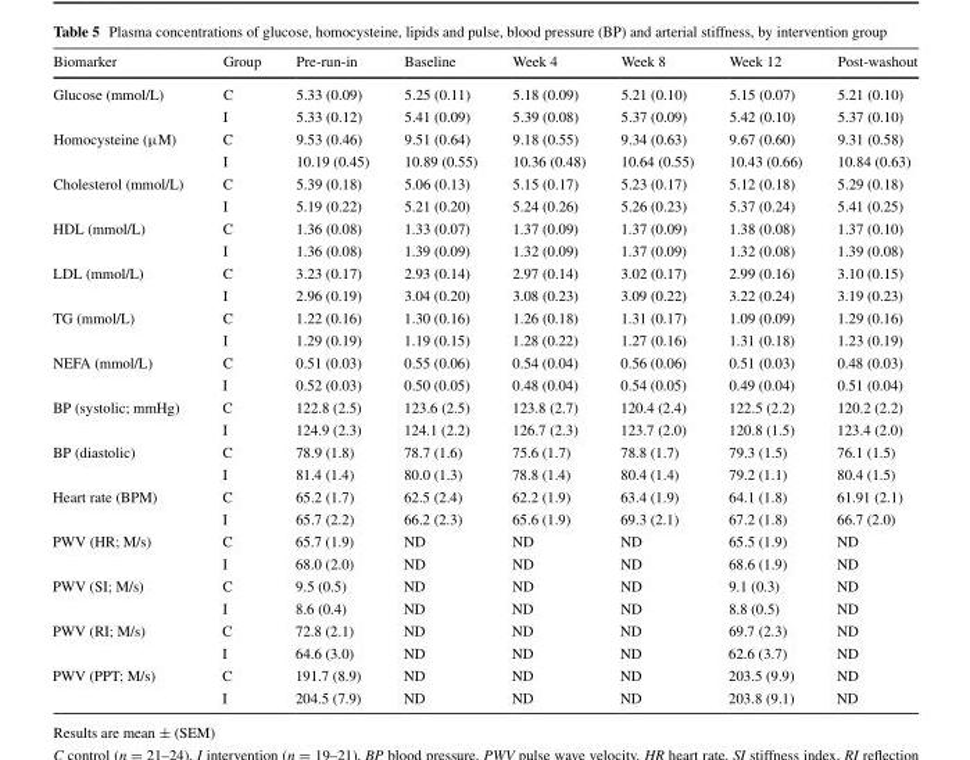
<table><thead><tr><td>Biomarker</td><td>Group</td><td>Pre-run-in</td><td>Baseline</td><td>Week 4</td><td>Week 8</td><td>Week 12</td><td>Post-washout</td></tr></thead><tbody><tr><td rowspan="2">Glucose (mmol/L)</td><td>C</td><td>5.33 (0.09)</td><td>5.25 (0.11)</td><td>5.18 (0.09)</td><td>5.21 (0.10)</td><td>5.15 (0.07)</td><td>5.21 (0.10)</td></tr><tr><td>I</td><td>5.33 (0.12)</td><td>5.41 (0.09)</td><td>5.39 (0.08)</td><td>5.37 (0.09)</td><td>5.42 (0.10)</td><td>5.37 (0.10)</td></tr><tr><td rowspan="2">Homocysteine (μM)</td><td>C</td><td>9.53 (0.46)</td><td>9.51 (0.64)</td><td>9.18 (0.55)</td><td>9.34 (0.63)</td><td>9.67 (0.60)</td><td>9.31 (0.58)</td></tr><tr><td>I</td><td>10.19 (0.45)</td><td>10.89 (0.55)</td><td>10.36 (0.48)</td><td>10.64 (0.55)</td><td>10.43 (0.66)</td><td>10.84 (0.63)</td></tr><tr><td rowspan="2">Cholesterol (mmol/L)</td><td>C</td><td>5.39 (0.18)</td><td>5.06 (0.13)</td><td>5.15 (0.17)</td><td>5.23 (0.17)</td><td>5.12 (0.18)</td><td>5.29 (0.18)</td></tr><tr><td>I</td><td>5.19 (0.22)</td><td>5.21 (0.20)</td><td>5.24 (0.26)</td><td>5.26 (0.23)</td><td>5.37 (0.24)</td><td>5.41 (0.25)</td></tr><tr><td rowspan="2">HDL (mmol/L)</td><td>C</td><td>1.36 (0.08)</td><td>1.33 (0.07)</td><td>1.37 (0.09)</td><td>1.37 (0.09)</td><td>1.38 (0.08)</td><td>1.37 (0.10)</td></tr><tr><td>I</td><td>1.36 (0.08)</td><td>1.39 (0.09)</td><td>1.32 (0.09)</td><td>1.37 (0.09)</td><td>1.32 (0.08)</td><td>1.39 (0.08)</td></tr><tr><td rowspan="2">LDL (mmol/L)</td><td>C</td><td>3.23 (0.17)</td><td>2.93 (0.14)</td><td>2.97 (0.14)</td><td>3.02 (0.17)</td><td>2.99 (0.16)</td><td>3.10 (0.15)</td></tr><tr><td>I</td><td>2.96 (0.19)</td><td>3.04 (0.20)</td><td>3.08 (0.23)</td><td>3.09 (0.22)</td><td>3.22 (0.24)</td><td>3.19 (0.23)</td></tr><tr><td rowspan="2">TG (mmol/L)</td><td>C</td><td>1.22 (0.16)</td><td>1.30 (0.16)</td><td>1.26 (0.18)</td><td>1.31 (0.17)</td><td>1.09 (0.09)</td><td>1.29 (0.16)</td></tr><tr><td>I</td><td>1.29 (0.19)</td><td>1.19 (0.15)</td><td>1.28 (0.22)</td><td>1.27 (0.16)</td><td>1.31 (0.18)</td><td>1.23 (0.19)</td></tr><tr><td rowspan="2">NEFA (mmol/L)</td><td>C</td><td>0.51 (0.03)</td><td>0.55 (0.06)</td><td>0.54 (0.04)</td><td>0.56 (0.06)</td><td>0.51 (0.03)</td><td>0.48 (0.03)</td></tr><tr><td>I</td><td>0.52 (0.03)</td><td>0.50 (0.05)</td><td>0.48 (0.04)</td><td>0.54 (0.05)</td><td>0.49 (0.04)</td><td>0.51 (0.04)</td></tr><tr><td rowspan="2">BP (systolic; mmHg)</td><td>C</td><td>122.8 (2.5)</td><td>123.6 (2.5)</td><td>123.8 (2.7)</td><td>120.4 (2.4)</td><td>122.5 (2.2)</td><td>120.2 (2.2)</td></tr><tr><td>I</td><td>124.9 (2.3)</td><td>124.1 (2.2)</td><td>126.7 (2.3)</td><td>123.7 (2.0)</td><td>120.8 (1.5)</td><td>123.4 (2.0)</td></tr><tr><td rowspan="2">BP (diastolic)</td><td>C</td><td>78.9 (1.8)</td><td>78.7 (1.6)</td><td>75.6 (1.7)</td><td>78.8 (1.7)</td><td>79.3 (1.5)</td><td>76.1 (1.5)</td></tr><tr><td>I</td><td>81.4 (1.4)</td><td>80.0 (1.3)</td><td>78.8 (1.4)</td><td>80.4 (1.4)</td><td>79.2 (1.1)</td><td>80.4 (1.5)</td></tr><tr><td rowspan="2">Heart rate (BPM)</td><td>C</td><td>65.2 (1.7)</td><td>62.5 (2.4)</td><td>62.2 (1.9)</td><td>63.4 (1.9)</td><td>64.1 (1.8)</td><td>61.91 (2.1)</td></tr><tr><td>I</td><td>65.7 (2.2)</td><td>66.2 (2.3)</td><td>65.6 (1.9)</td><td>69.3 (2.1)</td><td>67.2 (1.8)</td><td>66.7 (2.0)</td></tr><tr><td rowspan="2">PWV (HR; M/s)</td><td>C</td><td>65.7 (1.9)</td><td>ND</td><td>ND</td><td>ND</td><td>65.5 (1.9)</td><td>ND</td></tr><tr><td>I</td><td>68.0 (2.0)</td><td>ND</td><td>ND</td><td>ND</td><td>68.6 (1.9)</td><td>ND</td></tr><tr><td rowspan="2">PWV (SI; M/s)</td><td>C</td><td>9.5 (0.5)</td><td>ND</td><td>ND</td><td>ND</td><td>9.1 (0.3)</td><td>ND</td></tr><tr><td>I</td><td>8.6 (0.4)</td><td>ND</td><td>ND</td><td>ND</td><td>8.8 (0.5)</td><td>ND</td></tr><tr><td rowspan="2">PWV (RI; M/s)</td><td>C</td><td>72.8 (2.1)</td><td>ND</td><td>ND</td><td>ND</td><td>69.7 (2.3)</td><td>ND</td></tr><tr><td>I</td><td>64.6 (3.0)</td><td>ND</td><td>ND</td><td>ND</td><td>62.6 (3.7)</td><td>ND</td></tr><tr><td rowspan="2">PWV (PPT; M/s)</td><td>C</td><td>191.7 (8.9)</td><td>ND</td><td>ND</td><td>ND</td><td>203.5 (9.9)</td><td>ND</td></tr><tr><td>I</td><td>204.5 (7.9)</td><td>ND</td><td>ND</td><td>ND</td><td>203.8 (9.1)</td><td>ND</td></tr></tbody></table>